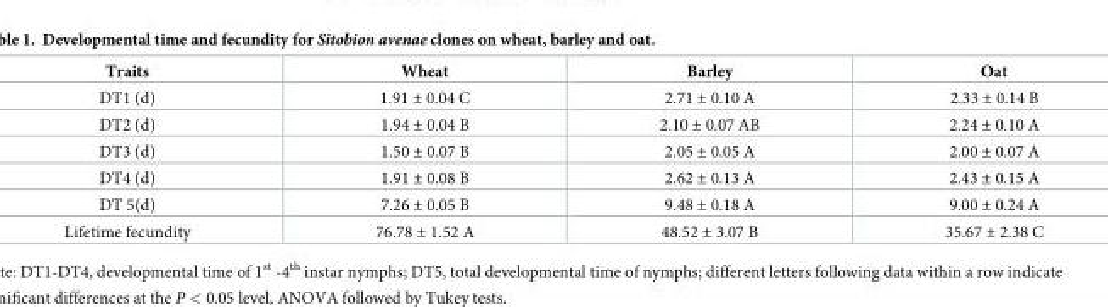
<table><thead><tr><td>Traits</td><td>Wheat</td><td>Barley</td><td>Oat</td></tr></thead><tbody><tr><td>DT1 (d)</td><td>1.91 ± 0.04 C</td><td>2.71 ± 0.10 A</td><td>2.33 ± 0.14 B</td></tr><tr><td>DT2 (d)</td><td>1.94 ± 0.04 B</td><td>2.10 ± 0.07 AB</td><td>2.24 ± 0.10 A</td></tr><tr><td>DT3 (d)</td><td>1.50 ± 0.07 B</td><td>2.05 ± 0.05 A</td><td>2.00 ± 0.07 A</td></tr><tr><td>DT4 (d)</td><td>1.91 ± 0.08 B</td><td>2.62 ± 0.13 A</td><td>2.43 ± 0.15 A</td></tr><tr><td>DT 5(d)</td><td>7.26 ± 0.05 B</td><td>9.48 ± 0.18 A</td><td>9.00 ± 0.24 A</td></tr><tr><td>Lifetime fecundity</td><td>76.78 ± 1.52 A</td><td>48.52 ± 3.07 B</td><td>35.67 ± 2.38 C</td></tr></tbody></table>